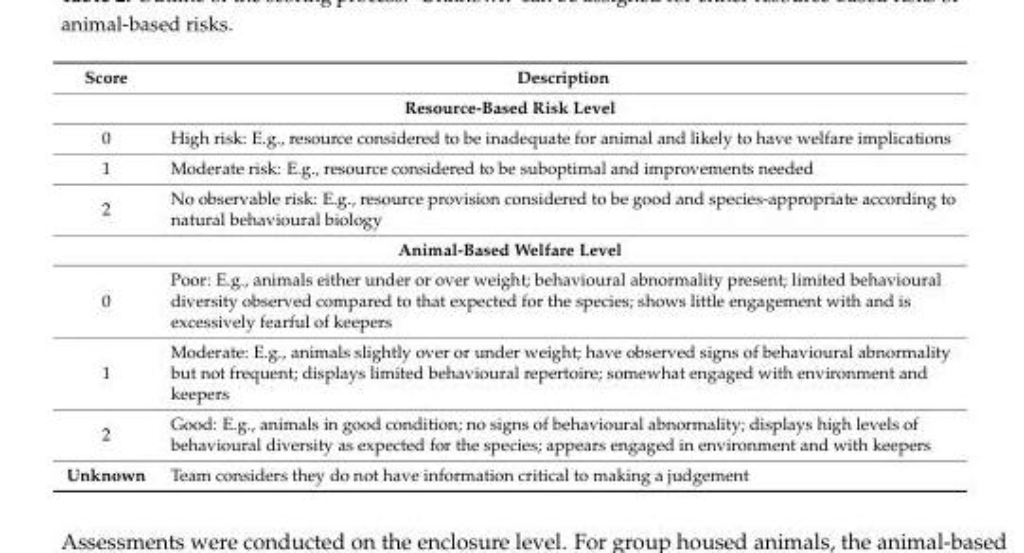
<table><thead><tr><td>Score</td><td>Description</td></tr></thead><tbody><tr><td colspan="2">Resource-Based Risk Level</td></tr><tr><td>0</td><td>High risk: E.g., resource considered to be inadequate for animal and likely to have welfare implications</td></tr><tr><td>1</td><td>Moderate risk: E.g., resource considered to be suboptimal and improvements needed</td></tr><tr><td>2</td><td>No observable risk: E.g., resource provision considered to be good and species-appropriate according to natural behavioural biology</td></tr><tr><td colspan="2">Animal-Based Welfare Level</td></tr><tr><td>0</td><td>Poor: E.g., animals either under or over weight; behavioural abnormality present; limited behavioural diversity observed compared to that expected for the species; shows little engagement with and is excessively fearful of keepers</td></tr><tr><td>1</td><td>Moderate: E.g., animals slightly over or under weight; have observed signs of behavioural abnormality but not frequent; displays limited behavioural repertoire; somewhat engaged with environment and keepers</td></tr><tr><td>2</td><td>Good: E.g., animals in good condition; no signs of behavioural abnormality; displays high levels of behavioural diversity as expected for the species; appears engaged in environment and with keepers</td></tr><tr><td>Unknown</td><td>Team considers they do not have information critical to making a judgement</td></tr></tbody></table>